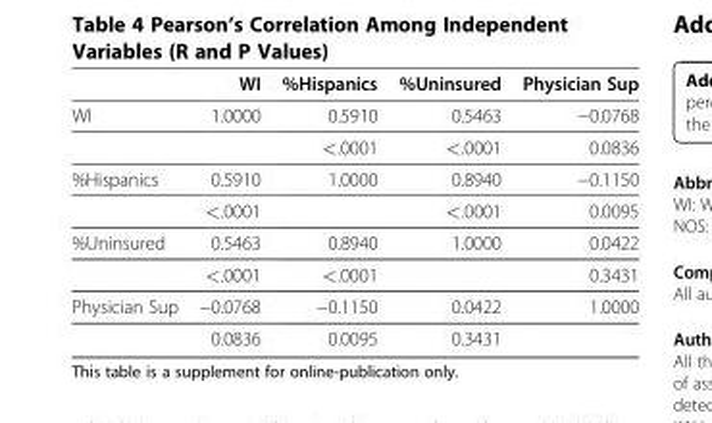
<table><thead><tr><td></td><td>WI</td><td>%Hispanics</td><td>%Uninsured</td><td>Physician Sup</td></tr></thead><tbody><tr><td rowspan="2">WI</td><td>1.0000</td><td>0.5910</td><td>0.5463</td><td>−0.0768</td></tr><tr><td></td><td>&lt;.0001</td><td>&lt;.0001</td><td>0.0836</td></tr><tr><td rowspan="2">%Hispanics</td><td>0.5910</td><td>1.0000</td><td>0.8940</td><td>−0.1150</td></tr><tr><td>&lt;.0001</td><td></td><td>&lt;.0001</td><td>0.0095</td></tr><tr><td rowspan="2">%Uninsured</td><td>0.5463</td><td>0.8940</td><td>1.0000</td><td>0.0422</td></tr><tr><td>&lt;.0001</td><td>&lt;.0001</td><td></td><td>0.3431</td></tr><tr><td rowspan="2">Physician Sup</td><td>−0.0768</td><td>−0.1150</td><td>0.0422</td><td>1.0000</td></tr><tr><td>0.0836</td><td>0.0095</td><td>0.3431</td><td></td></tr></tbody></table>